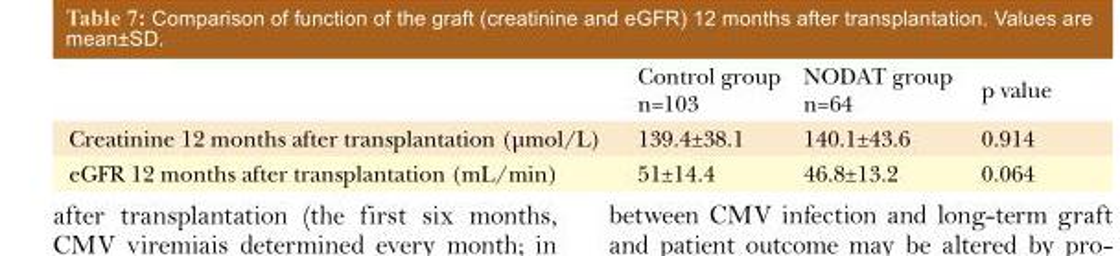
<table><thead><tr><td></td><td>Control group n=103</td><td>NODAT group n=64</td><td>p value</td></tr></thead><tbody><tr><td>Creatinine 12 months after transplantation (µmol/L)</td><td>139.4±38.1</td><td>140.1±43.6</td><td>0.914</td></tr><tr><td>eGFR 12 months after transplantation (mL/min)</td><td>51±14.4</td><td>46.8±13.2</td><td>0.064</td></tr></tbody></table>